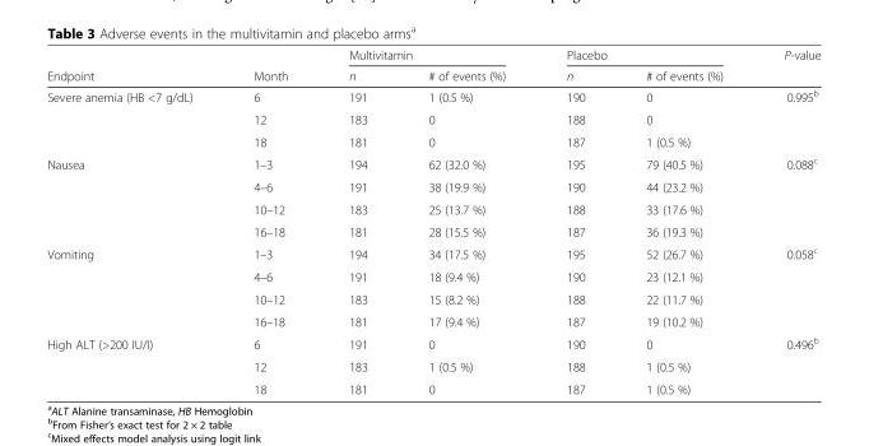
<table><thead><tr><td rowspan="2">Endpoint</td><td rowspan="2">Month</td><td colspan="2">Multivitamin</td><td colspan="2">Placebo</td><td rowspan="2">P-value</td></tr><tr><td>n</td><td># of events (%)</td><td>n</td><td># of events (%)</td></tr></thead><tbody><tr><td rowspan="3">Severe anemia (HB &lt;7 g/dL)</td><td>6</td><td>191</td><td>1 (0.5 %)</td><td>190</td><td>0</td><td>0.995<sup>b</sup></td></tr><tr><td>12</td><td>183</td><td>0</td><td>188</td><td>0</td><td></td></tr><tr><td>18</td><td>181</td><td>0</td><td>187</td><td>1 (0.5 %)</td><td></td></tr><tr><td rowspan="4">Nausea</td><td>1–3</td><td>194</td><td>62 (32.0 %)</td><td>195</td><td>79 (40.5 %)</td><td>0.088<sup>c</sup></td></tr><tr><td>4–6</td><td>191</td><td>38 (19.9 %)</td><td>190</td><td>44 (23.2 %)</td><td></td></tr><tr><td>10–12</td><td>183</td><td>25 (13.7 %)</td><td>188</td><td>33 (17.6 %)</td><td></td></tr><tr><td>16–18</td><td>181</td><td>28 (15.5 %)</td><td>187</td><td>36 (19.3 %)</td><td></td></tr><tr><td rowspan="4">Vomiting</td><td>1–3</td><td>194</td><td>34 (17.5 %)</td><td>195</td><td>52 (26.7 %)</td><td>0.058<sup>c</sup></td></tr><tr><td>4–6</td><td>191</td><td>18 (9.4 %)</td><td>190</td><td>23 (12.1 %)</td><td></td></tr><tr><td>10–12</td><td>183</td><td>15 (8.2 %)</td><td>188</td><td>22 (11.7 %)</td><td></td></tr><tr><td>16–18</td><td>181</td><td>17 (9.4 %)</td><td>187</td><td>19 (10.2 %)</td><td></td></tr><tr><td rowspan="3">High ALT (&gt;200 IU/I)</td><td>6</td><td>191</td><td>0</td><td>190</td><td>0</td><td>0.496<sup>b</sup></td></tr><tr><td>12</td><td>183</td><td>1 (0.5 %)</td><td>188</td><td>1 (0.5 %)</td><td></td></tr><tr><td>18</td><td>181</td><td>0</td><td>187</td><td>1 (0.5 %)</td><td></td></tr></tbody></table>